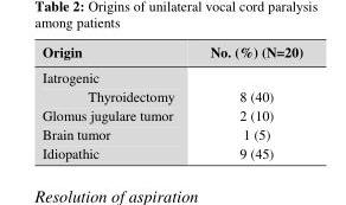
<table><thead><tr><td>Origin</td><td>No. (%) (N=20)</td></tr></thead><tbody><tr><td colspan="2">Iatrogenic</td></tr><tr><td>Thyroidectomy Glomus jugulare tumor Brain tumor Idiopathic</td><td>8 (40) 2 (10) 1 (5) 9 (45)</td></tr></tbody></table>